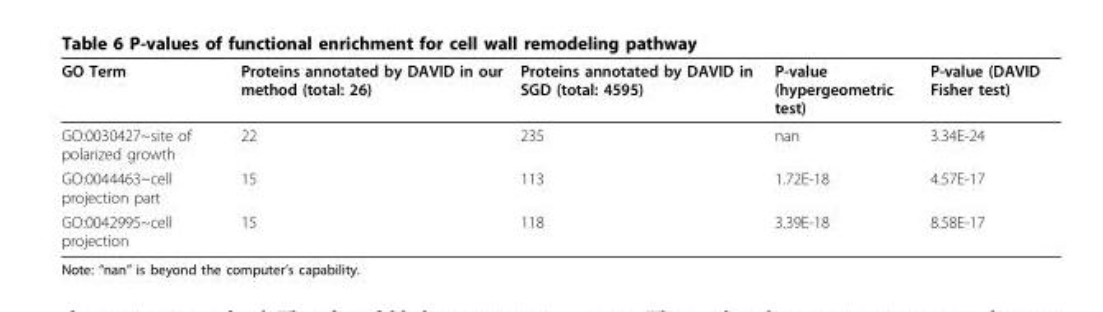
<table><thead><tr><td>GO Term</td><td>Proteins annotated by DAVID in our method (total: 26)</td><td>Proteins annotated by DAVID in SGD (total: 4595)</td><td>P-value (hypergeometric test)</td><td>P-value (DAVID Fisher test)</td></tr></thead><tbody><tr><td>GO:0030427~site of polarized growth</td><td>22</td><td>235</td><td>nan</td><td>3.34E-24</td></tr><tr><td>GO:0044463~cell projection part</td><td>15</td><td>113</td><td>1.72E-18</td><td>4.57E-17</td></tr><tr><td>GO:0042995~cell projection</td><td>15</td><td>118</td><td>3.39E-18</td><td>8.58E-17</td></tr></tbody></table>